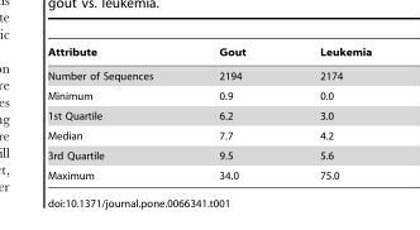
<table><thead><tr><td>Attribute</td><td>Gout</td><td>Leukemia</td></tr></thead><tbody><tr><td>Number of Sequences</td><td>2194</td><td>2174</td></tr><tr><td>Minimum</td><td>0.9</td><td>0.0</td></tr><tr><td>1st Quartile</td><td>6.2</td><td>3.0</td></tr><tr><td>Median</td><td>7.7</td><td>4.2</td></tr><tr><td>3rd Quartile</td><td>9.5</td><td>5.6</td></tr><tr><td>Maximum</td><td>34.0</td><td>75.0</td></tr></tbody></table>